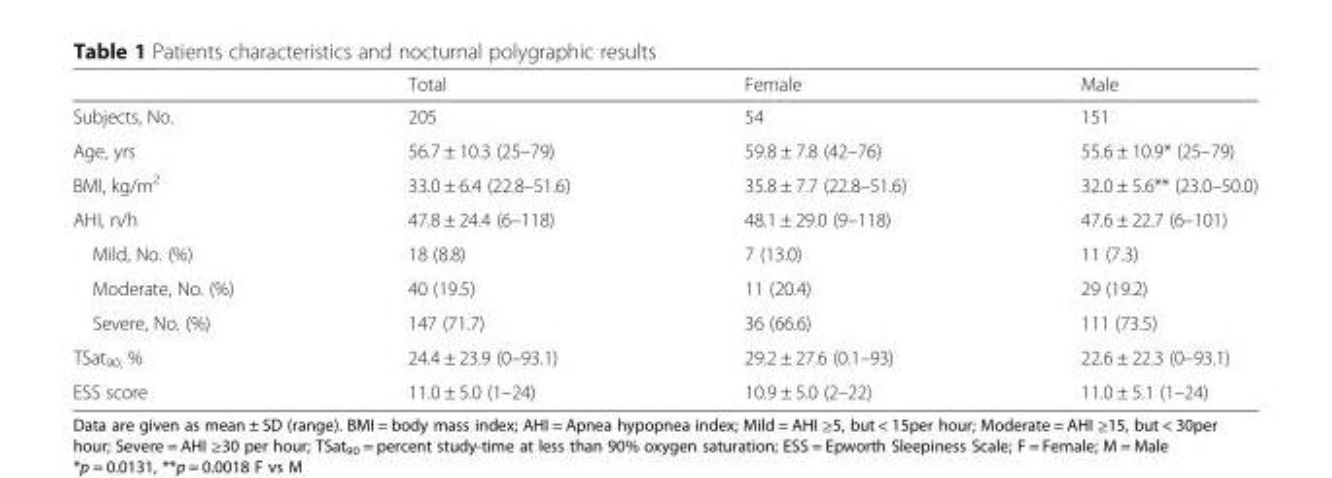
<table><thead><tr><td></td><td>Total</td><td>Female</td><td>Male</td></tr></thead><tbody><tr><td>Subjects, No.</td><td>205</td><td>54</td><td>151</td></tr><tr><td>Age, yrs</td><td>56.7 ± 10.3 (25–79)</td><td>59.8 ± 7.8 (42–76)</td><td>55.6 ± 10.9* (25–79)</td></tr><tr><td>BMI, kg/m<sup>2</sup></td><td>33.0 ± 6.4 (22.8–51.6)</td><td>35.8 ± 7.7 (22.8–51.6)</td><td>32.0 ± 5.6** (23.0–50.0)</td></tr><tr><td>AHI, n/h</td><td>47.8 ± 24.4 (6–118)</td><td>48.1 ± 29.0 (9–118)</td><td>47.6 ± 22.7 (6–101)</td></tr><tr><td>Mild, No. (%)</td><td>18 (8.8)</td><td>7 (13.0)</td><td>11 (7.3)</td></tr><tr><td>Moderate, No. (%)</td><td>40 (19.5)</td><td>11 (20.4)</td><td>29 (19.2)</td></tr><tr><td>Severe, No. (%)</td><td>147 (71.7)</td><td>36 (66.6)</td><td>111 (73.5)</td></tr><tr><td>TSat<sub>90,</sub> %</td><td>24.4 ± 23.9 (0–93.1)</td><td>29.2 ± 27.6 (0.1–93)</td><td>22.6 ± 22.3 (0–93.1)</td></tr><tr><td>ESS score</td><td>11.0 ± 5.0 (1–24)</td><td>10.9 ± 5.0 (2–22)</td><td>11.0 ± 5.1 (1–24)</td></tr></tbody></table>